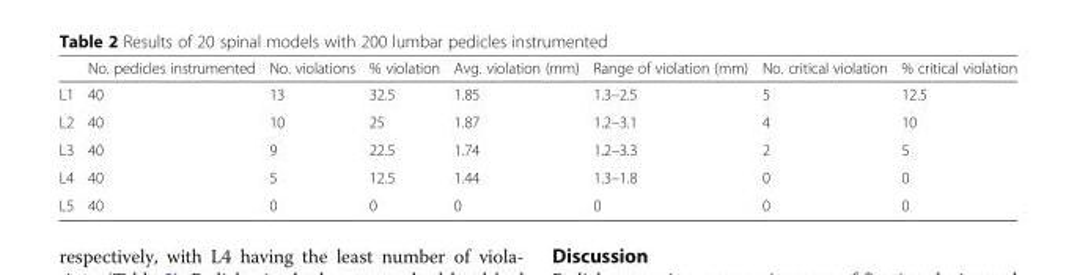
<table><thead><tr><td></td><td>No. pedicles instrumented</td><td>No. violations</td><td>% violation</td><td>Avg. violation (mm)</td><td>Range of violation (mm)</td><td>No. critical violation</td><td>% critical violation</td></tr></thead><tbody><tr><td>L1</td><td>40</td><td>13</td><td>32.5</td><td>1.85</td><td>1.3–2.5</td><td>5</td><td>12.5</td></tr><tr><td>L2</td><td>40</td><td>10</td><td>25</td><td>1.87</td><td>1.2–3.1</td><td>4</td><td>10</td></tr><tr><td>L3</td><td>40</td><td>9</td><td>22.5</td><td>1.74</td><td>1.2–3.3</td><td>2</td><td>5</td></tr><tr><td>L4</td><td>40</td><td>5</td><td>12.5</td><td>1.44</td><td>1.3–1.8</td><td>0</td><td>0</td></tr><tr><td>L5</td><td>40</td><td>0</td><td>0</td><td>0</td><td>0</td><td>0</td><td>0</td></tr></tbody></table>